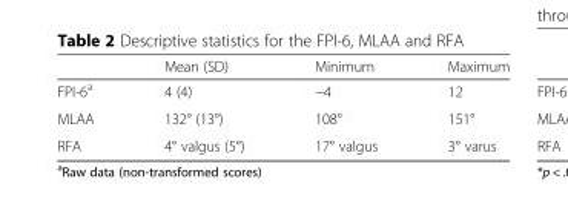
<table><thead><tr><td></td><td>Mean (SD)</td><td>Minimum</td><td>Maximum</td></tr></thead><tbody><tr><td>FPI-6<sup>a</sup></td><td>4 (4)</td><td>−4</td><td>12</td></tr><tr><td>MLAA</td><td>132° (13°)</td><td>108°</td><td>151°</td></tr><tr><td>RFA</td><td>4° valgus (5°)</td><td>17° valgus</td><td>3° varus</td></tr></tbody></table>